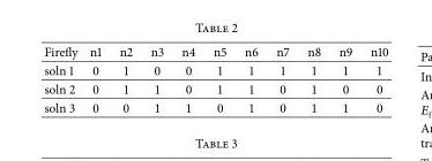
<table><tbody><tr><td>Firefly</td><td>n1</td><td>n2</td><td>n3</td><td>n4</td><td>n5</td><td>n6</td><td>n7</td><td>n8</td><td>n9</td><td>n10</td></tr><tr><td>soln 1</td><td>0</td><td>1</td><td>0</td><td>0</td><td>1</td><td>1</td><td>1</td><td>1</td><td>1</td><td>1</td></tr><tr><td>soln 2</td><td>0</td><td>1</td><td>1</td><td>0</td><td>1</td><td>1</td><td>0</td><td>1</td><td>0</td><td>0</td></tr><tr><td>soln 3</td><td>0</td><td>0</td><td>1</td><td>1</td><td>0</td><td>1</td><td>0</td><td>1</td><td>1</td><td>0</td></tr></tbody></table>